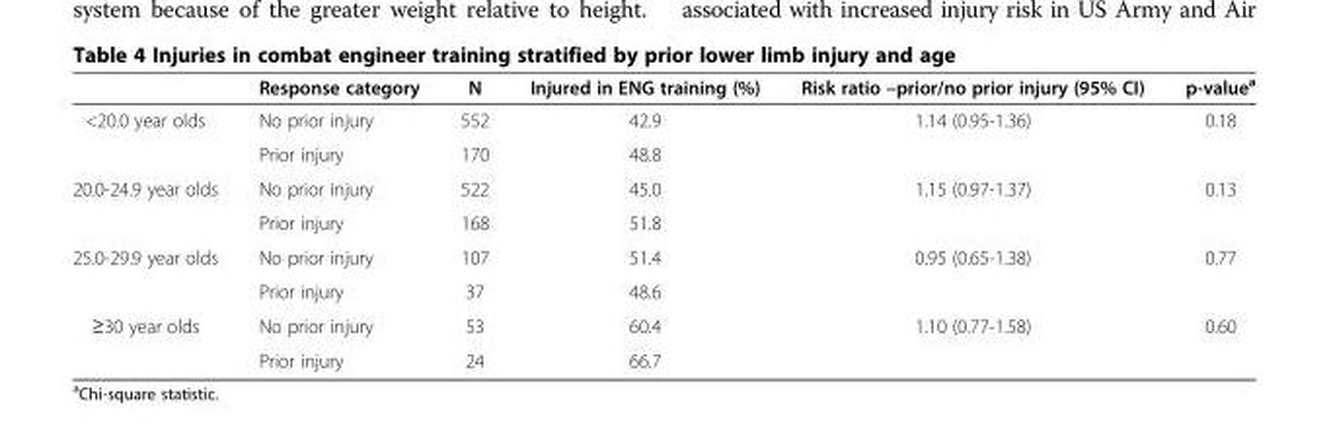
<table><thead><tr><td></td><td>Response category</td><td>N</td><td>Injured in ENG training (%)</td><td>Risk ratio –prior/no prior injury (95% CI)</td><td>p-value<sup>a</sup></td></tr></thead><tbody><tr><td rowspan="2">&lt;20.0 year olds</td><td>No prior injury</td><td>552</td><td>42.9</td><td rowspan="2">1.14 (0.95-1.36)</td><td rowspan="2">0.18</td></tr><tr><td>Prior injury</td><td>170</td><td>48.8</td></tr><tr><td rowspan="2">20.0-24.9 year olds</td><td>No prior injury</td><td>522</td><td>45.0</td><td rowspan="2">1.15 (0.97-1.37)</td><td rowspan="2">0.13</td></tr><tr><td>Prior injury</td><td>168</td><td>51.8</td></tr><tr><td rowspan="2">25.0-29.9 year olds</td><td>No prior injury</td><td>107</td><td>51.4</td><td rowspan="2">0.95 (0.65-1.38)</td><td rowspan="2">0.77</td></tr><tr><td>Prior injury</td><td>37</td><td>48.6</td></tr><tr><td rowspan="2">≥30 year olds</td><td>No prior injury</td><td>53</td><td>60.4</td><td>1.10 (0.77-1.58)</td><td>0.60</td></tr><tr><td>Prior injury</td><td>24</td><td>66.7</td><td></td><td></td></tr></tbody></table>